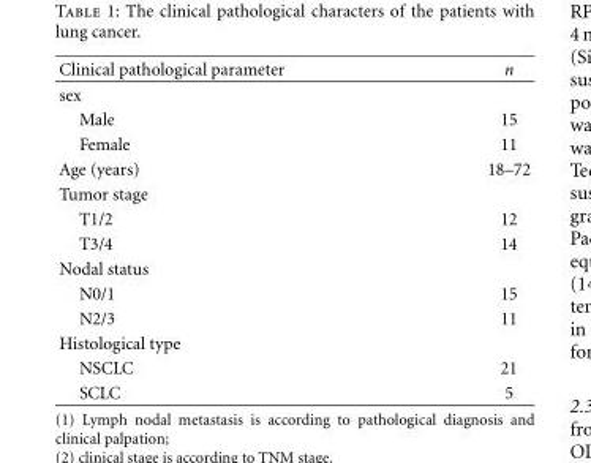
<table><thead><tr><td>Clinical pathological parameter</td><td>n</td></tr></thead><tbody><tr><td colspan="2">sex</td></tr><tr><td>Male</td><td>15</td></tr><tr><td>Female</td><td>11</td></tr><tr><td>Age (years)</td><td>18–72</td></tr><tr><td colspan="2">Tumor stage</td></tr><tr><td>T1/2</td><td>12</td></tr><tr><td>T3/4</td><td>14</td></tr><tr><td colspan="2">Nodal status</td></tr><tr><td>N0/1</td><td>15</td></tr><tr><td>N2/3</td><td>11</td></tr><tr><td colspan="2">Histological type</td></tr><tr><td>NSCLC</td><td>21</td></tr><tr><td>SCLC</td><td>5</td></tr></tbody></table>